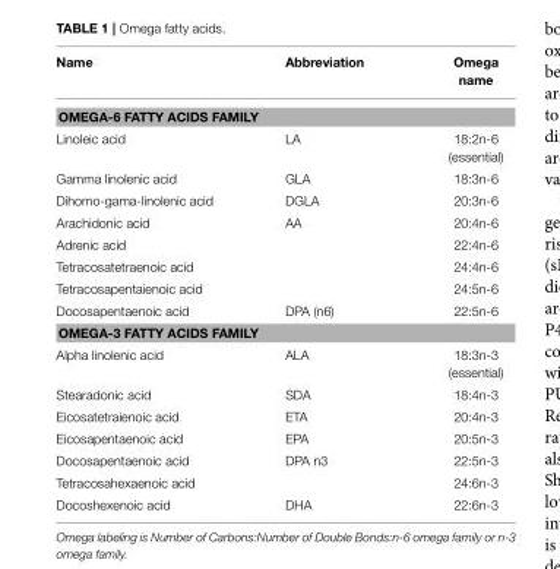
<table><thead><tr><td>Name</td><td>Abbreviation</td><td>Omega name</td></tr></thead><tbody><tr><td colspan="3">OMEGA-6 FATTY ACIDS FAMILY</td></tr><tr><td>Linoleic acid</td><td>LA</td><td>18:2n-6 (essential)</td></tr><tr><td>Gamma linolenic acid</td><td>GLA</td><td>18:3n-6</td></tr><tr><td>Dihomo-gama-linolenic acid</td><td>DGLA</td><td>20:3n-6</td></tr><tr><td>Arachidonic acid</td><td>AA</td><td>20:4n-6</td></tr><tr><td>Adrenic acid</td><td></td><td>22:4n-6</td></tr><tr><td>Tetracosatetraenoic acid</td><td></td><td>24:4n-6</td></tr><tr><td>Tetracosapentaienoic acid</td><td></td><td>24:5n-6</td></tr><tr><td>Docosapentaenoic acid</td><td>DPA (n6)</td><td>22:5n-6</td></tr><tr><td colspan="3">OMEGA-3 FATTY ACIDS FAMILY</td></tr><tr><td>Alpha linolenic acid</td><td>ALA</td><td>18:3n-3 (essential)</td></tr><tr><td>Stearadonic acid</td><td>SDA</td><td>18:4n-3</td></tr><tr><td>Eicosatetraienoic acid</td><td>ETA</td><td>20:4n-3</td></tr><tr><td>Eicosapentaenoic acid</td><td>EPA</td><td>20:5n-3</td></tr><tr><td>Docosapentaenoic acid</td><td>DPA n3</td><td>22:5n-3</td></tr><tr><td>Tetracosahexaenoic acid</td><td></td><td>24:6n-3</td></tr><tr><td>Docoshexenoic acid</td><td>DHA</td><td>22:6n-3</td></tr></tbody></table>